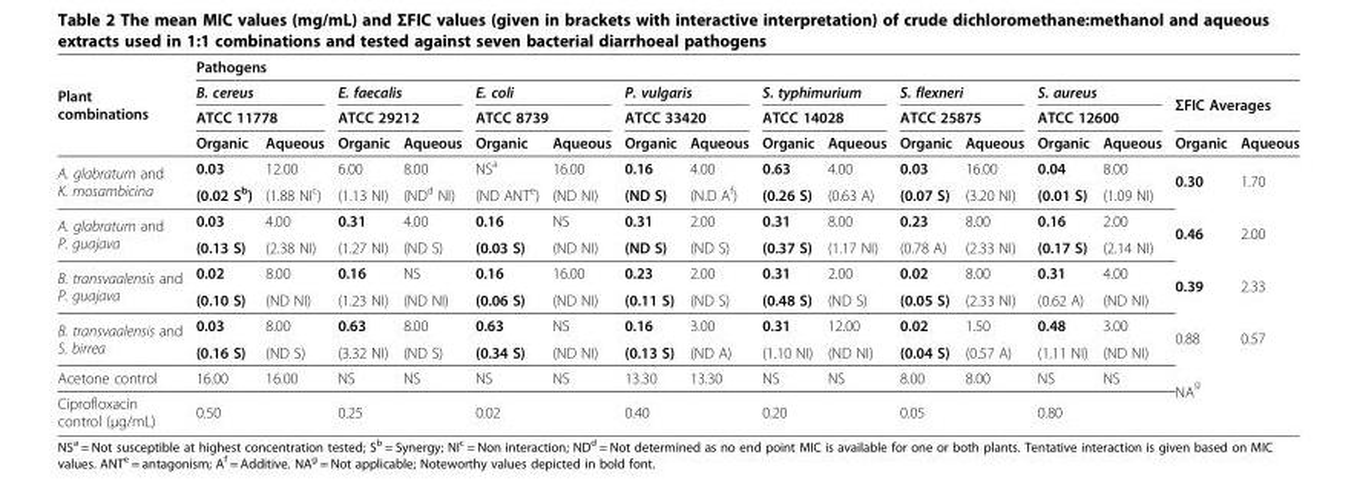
<table><thead><tr><td rowspan="4">Plant combinations</td><td colspan="16">Pathogens</td></tr><tr><td rowspan="2" colspan="2">B. cereus ATCC 11778</td><td rowspan="2" colspan="2">E. faecalis ATCC 29212</td><td rowspan="2" colspan="2">E. coli ATCC 8739</td><td rowspan="2" colspan="2">P. vulgaris ATCC 33420</td><td rowspan="2" colspan="2">S. typhimurium ATCC 14028</td><td rowspan="2" colspan="2">S. flexneri ATCC 25875</td><td rowspan="2" colspan="2">S. aureus ATCC 12600</td><td rowspan="2" colspan="2">ΣFIC Averages</td></tr><tr></tr><tr><td>Organic</td><td>Aqueous</td><td>Organic</td><td>Aqueous</td><td>Organic</td><td>Aqueous</td><td>Organic</td><td>Aqueous</td><td>Organic</td><td>Aqueous</td><td>Organic</td><td>Aqueous</td><td>Organic</td><td>Aqueous</td><td>Organic</td><td>Aqueous</td></tr></thead><tbody><tr><td rowspan="2">A. glabratum and K. mosambicina</td><td>0.03</td><td>12.00</td><td>6.00</td><td>8.00</td><td>NS<sup>a</sup></td><td>16.00</td><td>0.16</td><td>4.00</td><td>0.63</td><td>4.00</td><td>0.03</td><td>16.00</td><td>0.04</td><td>8.00</td><td rowspan="2">0.30</td><td rowspan="2">1.70</td></tr><tr><td>(0.02 S<sup>b</sup>)</td><td>(1.88 NI<sup>c</sup>)</td><td>(1.13 NI)</td><td>(ND<sup>d</sup> NI)</td><td>(ND ANT<sup>e</sup>)</td><td>(ND NI)</td><td>(ND S)</td><td>(N.D A<sup>f</sup>)</td><td>(0.26 S)</td><td>(0.63 A)</td><td>(0.07 S)</td><td>(3.20 NI)</td><td>(0.01 S)</td><td>(1.09 NI)</td></tr><tr><td rowspan="2">A. glabratum and P. guajava</td><td>0.03</td><td>4.00</td><td>0.31</td><td>4.00</td><td>0.16</td><td>NS</td><td>0.31</td><td>2.00</td><td>0.31</td><td>8.00</td><td>0.23</td><td>8.00</td><td>0.16</td><td>2.00</td><td rowspan="2">0.46</td><td rowspan="2">2.00</td></tr><tr><td>(0.13 S)</td><td>(2.38 NI)</td><td>(1.27 NI)</td><td>(ND S)</td><td>(0.03 S)</td><td>(ND NI)</td><td>(ND S)</td><td>(ND S)</td><td>(0.37 S)</td><td>(1.17 NI)</td><td>(0.78 A)</td><td>(2.33 NI)</td><td>(0.17 S)</td><td>(2.14 NI)</td></tr><tr><td rowspan="2">B. transvaalensis and P. guajava</td><td>0.02</td><td>8.00</td><td>0.16</td><td>NS</td><td>0.16</td><td>16.00</td><td>0.23</td><td>2.00</td><td>0.31</td><td>2.00</td><td>0.02</td><td>8.00</td><td>0.31</td><td>4.00</td><td rowspan="2">0.39</td><td rowspan="2">2.33</td></tr><tr><td>(0.10 S)</td><td>(ND NI)</td><td>(1.23 NI)</td><td>(ND NI)</td><td>(0.06 S)</td><td>(ND NI)</td><td>(0.11 S)</td><td>(ND S)</td><td>(0.48 S)</td><td>(ND S)</td><td>(0.05 S)</td><td>(2.33 NI)</td><td>(0.62 A)</td><td>(ND NI)</td></tr><tr><td rowspan="2">B. transvaalensis and S. birrea</td><td>0.03</td><td>8.00</td><td>0.63</td><td>8.00</td><td>0.63</td><td>NS</td><td>0.16</td><td>3.00</td><td>0.31</td><td>12.00</td><td>0.02</td><td>1.50</td><td>0.48</td><td>3.00</td><td rowspan="2">0.88</td><td rowspan="2">0.57</td></tr><tr><td>(0.16 S)</td><td>(ND S)</td><td>(3.32 NI)</td><td>(ND S)</td><td>(0.34 S)</td><td>(ND NI)</td><td>(0.13 S)</td><td>(ND A)</td><td>(1.10 NI)</td><td>(ND NI)</td><td>(0.04 S)</td><td>(0.57 A)</td><td>(1.11 NI)</td><td>(ND NI)</td></tr><tr><td>Acetone control</td><td>16.00</td><td>16.00</td><td>NS</td><td>NS</td><td>NS</td><td>NS</td><td>13.30</td><td>13.30</td><td>NS</td><td>NS</td><td>8.00</td><td>8.00</td><td>NS</td><td>NS</td><td rowspan="2" colspan="2">NA <sup>g</sup></td></tr><tr><td>Ciprofloxacin control (μg/mL)</td><td colspan="2">0.50</td><td colspan="2">0.25</td><td colspan="2">0.02</td><td colspan="2">0.40</td><td colspan="2">0.20</td><td colspan="2">0.05</td><td colspan="2">0.80</td></tr></tbody></table>